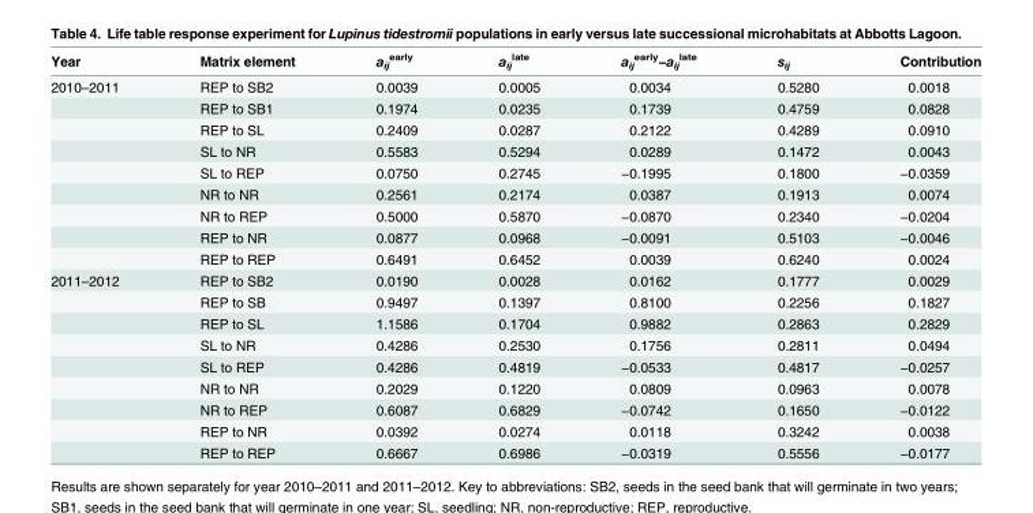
<table><thead><tr><td>Year</td><td>Matrix element</td><td>a<sub>ij</sub> <sup>early</sup></td><td>a<sub>ij</sub> <sup>late</sup></td><td>a<sub>ij</sub> <sup>early</sup>−a<sub>ij</sub> <sup>late</sup></td><td>s<sub>ij</sub></td><td>Contribution</td></tr></thead><tbody><tr><td rowspan="9">2010–2011</td><td>REP to SB2</td><td>0.0039</td><td>0.0005</td><td>0.0034</td><td>0.5280</td><td>0.0018</td></tr><tr><td>REP to SB1</td><td>0.1974</td><td>0.0235</td><td>0.1739</td><td>0.4759</td><td>0.0828</td></tr><tr><td>REP to SL</td><td>0.2409</td><td>0.0287</td><td>0.2122</td><td>0.4289</td><td>0.0910</td></tr><tr><td>SL to NR</td><td>0.5583</td><td>0.5294</td><td>0.0289</td><td>0.1472</td><td>0.0043</td></tr><tr><td>SL to REP</td><td>0.0750</td><td>0.2745</td><td>−0.1995</td><td>0.1800</td><td>−0.0359</td></tr><tr><td>NR to NR</td><td>0.2561</td><td>0.2174</td><td>0.0387</td><td>0.1913</td><td>0.0074</td></tr><tr><td>NR to REP</td><td>0.5000</td><td>0.5870</td><td>−0.0870</td><td>0.2340</td><td>−0.0204</td></tr><tr><td>REP to NR</td><td>0.0877</td><td>0.0968</td><td>−0.0091</td><td>0.5103</td><td>−0.0046</td></tr><tr><td>REP to REP</td><td>0.6491</td><td>0.6452</td><td>0.0039</td><td>0.6240</td><td>0.0024</td></tr><tr><td rowspan="9">2011–2012</td><td>REP to SB2</td><td>0.0190</td><td>0.0028</td><td>0.0162</td><td>0.1777</td><td>0.0029</td></tr><tr><td>REP to SB</td><td>0.9497</td><td>0.1397</td><td>0.8100</td><td>0.2256</td><td>0.1827</td></tr><tr><td>REP to SL</td><td>1.1586</td><td>0.1704</td><td>0.9882</td><td>0.2863</td><td>0.2829</td></tr><tr><td>SL to NR</td><td>0.4286</td><td>0.2530</td><td>0.1756</td><td>0.2811</td><td>0.0494</td></tr><tr><td>SL to REP</td><td>0.4286</td><td>0.4819</td><td>−0.0533</td><td>0.4817</td><td>−0.0257</td></tr><tr><td>NR to NR</td><td>0.2029</td><td>0.1220</td><td>0.0809</td><td>0.0963</td><td>0.0078</td></tr><tr><td>NR to REP</td><td>0.6087</td><td>0.6829</td><td>−0.0742</td><td>0.1650</td><td>−0.0122</td></tr><tr><td>REP to NR</td><td>0.0392</td><td>0.0274</td><td>0.0118</td><td>0.3242</td><td>0.0038</td></tr><tr><td>REP to REP</td><td>0.6667</td><td>0.6986</td><td>−0.0319</td><td>0.5556</td><td>−0.0177</td></tr></tbody></table>